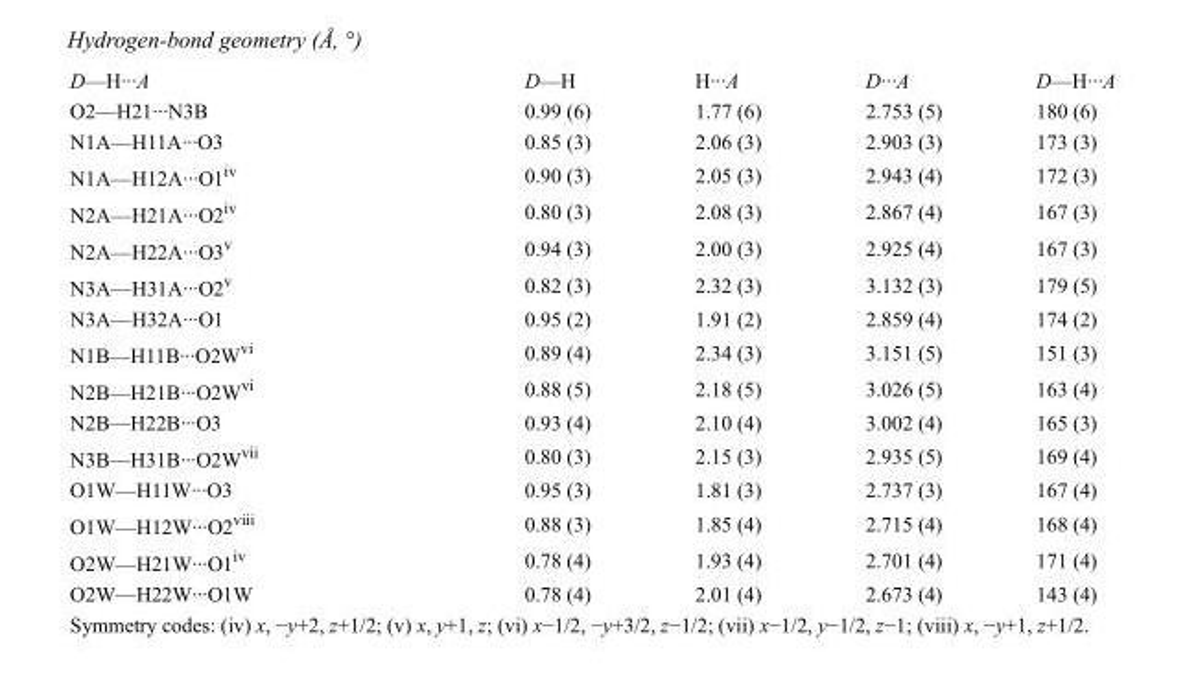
<table><tbody><tr><td>D—H···A</td><td>D—H</td><td>H···A</td><td>D···A</td><td>D—H···A</td></tr><tr><td>O2—H21···N3B</td><td>0.99 (6)</td><td>1.77 (6)</td><td>2.753 (5)</td><td>180 (6)</td></tr><tr><td>N1A—H11A···O3</td><td>0.85 (3)</td><td>2.06 (3)</td><td>2.903 (3)</td><td>173 (3)</td></tr><tr><td>N1A—H12A···O1<sup>iv</sup></td><td>0.90 (3)</td><td>2.05 (3)</td><td>2.943 (4)</td><td>172 (3)</td></tr><tr><td>N2A—H21A···O2<sup>iv</sup></td><td>0.80 (3)</td><td>2.08 (3)</td><td>2.867 (4)</td><td>167 (3)</td></tr><tr><td>N2A—H22A···O3<sup>v</sup></td><td>0.94 (3)</td><td>2.00 (3)</td><td>2.925 (4)</td><td>167 (3)</td></tr><tr><td>N3A—H31A···O2<sup>v</sup></td><td>0.82 (3)</td><td>2.32 (3)</td><td>3.132 (3)</td><td>179 (5)</td></tr><tr><td>N3A—H32A···O1</td><td>0.95 (2)</td><td>1.91 (2)</td><td>2.859 (4)</td><td>174 (2)</td></tr><tr><td>N1B—H11B···O2W<sup>vi</sup></td><td>0.89 (4)</td><td>2.34 (3)</td><td>3.151 (5)</td><td>151 (3)</td></tr><tr><td>N2B—H21B···O2W<sup>vi</sup></td><td>0.88 (5)</td><td>2.18 (5)</td><td>3.026 (5)</td><td>163 (4)</td></tr><tr><td>N2B—H22B···O3</td><td>0.93 (4)</td><td>2.10 (4)</td><td>3.002 (4)</td><td>165 (3)</td></tr><tr><td>N3B—H31B···O2W<sup>vii</sup></td><td>0.80 (3)</td><td>2.15 (3)</td><td>2.935 (5)</td><td>169 (4)</td></tr><tr><td>O1W—H11W···O3</td><td>0.95 (3)</td><td>1.81 (3)</td><td>2.737 (3)</td><td>167 (4)</td></tr><tr><td>O1W—H12W···O2<sup>viii</sup></td><td>0.88 (3)</td><td>1.85 (4)</td><td>2.715 (4)</td><td>168 (4)</td></tr><tr><td>O2W—H21W···O1<sup>iv</sup></td><td>0.78 (4)</td><td>1.93 (4)</td><td>2.701 (4)</td><td>171 (4)</td></tr><tr><td>O2W—H22W···O1W</td><td>0.78 (4)</td><td>2.01 (4)</td><td>2.673 (4)</td><td>143 (4)</td></tr></tbody></table>